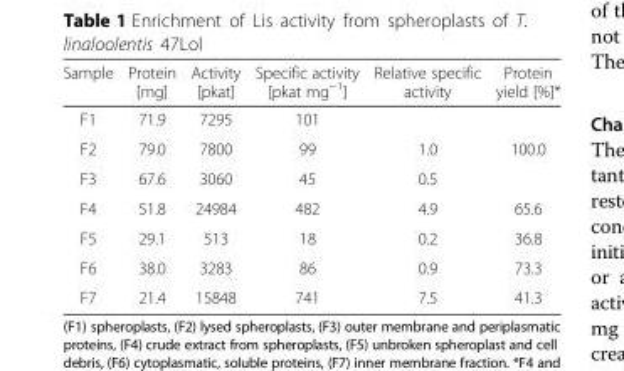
<table><thead><tr><td>Sample</td><td>Protein [mg]</td><td>Activity [pkat]</td><td>Specific activity [pkat mg<sup>−1</sup>]</td><td>Relative specific activity</td><td>Protein yield [%]*</td></tr></thead><tbody><tr><td>F1</td><td>71.9</td><td>7295</td><td>101</td><td></td><td></td></tr><tr><td>F2</td><td>79.0</td><td>7800</td><td>99</td><td>1.0</td><td>100.0</td></tr><tr><td>F3</td><td>67.6</td><td>3060</td><td>45</td><td>0.5</td><td></td></tr><tr><td>F4</td><td>51.8</td><td>24984</td><td>482</td><td>4.9</td><td>65.6</td></tr><tr><td>F5</td><td>29.1</td><td>513</td><td>18</td><td>0.2</td><td>36.8</td></tr><tr><td>F6</td><td>38.0</td><td>3283</td><td>86</td><td>0.9</td><td>73.3</td></tr><tr><td>F7</td><td>21.4</td><td>15848</td><td>741</td><td>7.5</td><td>41.3</td></tr></tbody></table>